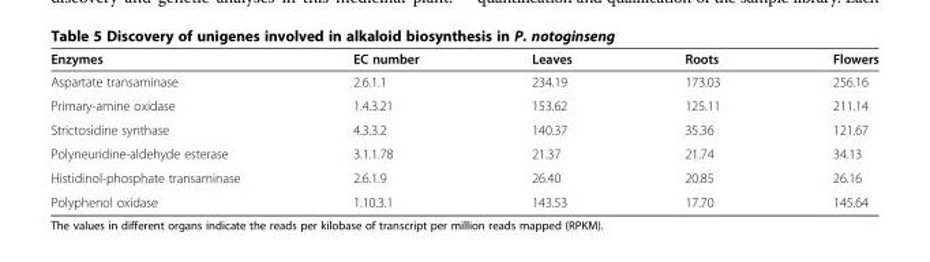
<table><thead><tr><td>Enzymes</td><td>EC number</td><td>Leaves</td><td>Roots</td><td>Flowers</td></tr></thead><tbody><tr><td>Aspartate transaminase</td><td>2.6.1.1</td><td>234.19</td><td>173.03</td><td>256.16</td></tr><tr><td>Primary-amine oxidase</td><td>1.4.3.21</td><td>153.62</td><td>125.11</td><td>211.14</td></tr><tr><td>Strictosidine synthase</td><td>4.3.3.2</td><td>140.37</td><td>35.36</td><td>121.67</td></tr><tr><td>Polyneuridine-aldehyde esterase</td><td>3.1.1.78</td><td>21.37</td><td>21.74</td><td>34.13</td></tr><tr><td>Histidinol-phosphate transaminase</td><td>2.6.1.9</td><td>26.40</td><td>20.85</td><td>26.16</td></tr><tr><td>Polyphenol oxidase</td><td>1.10.3.1</td><td>143.53</td><td>17.70</td><td>145.64</td></tr></tbody></table>